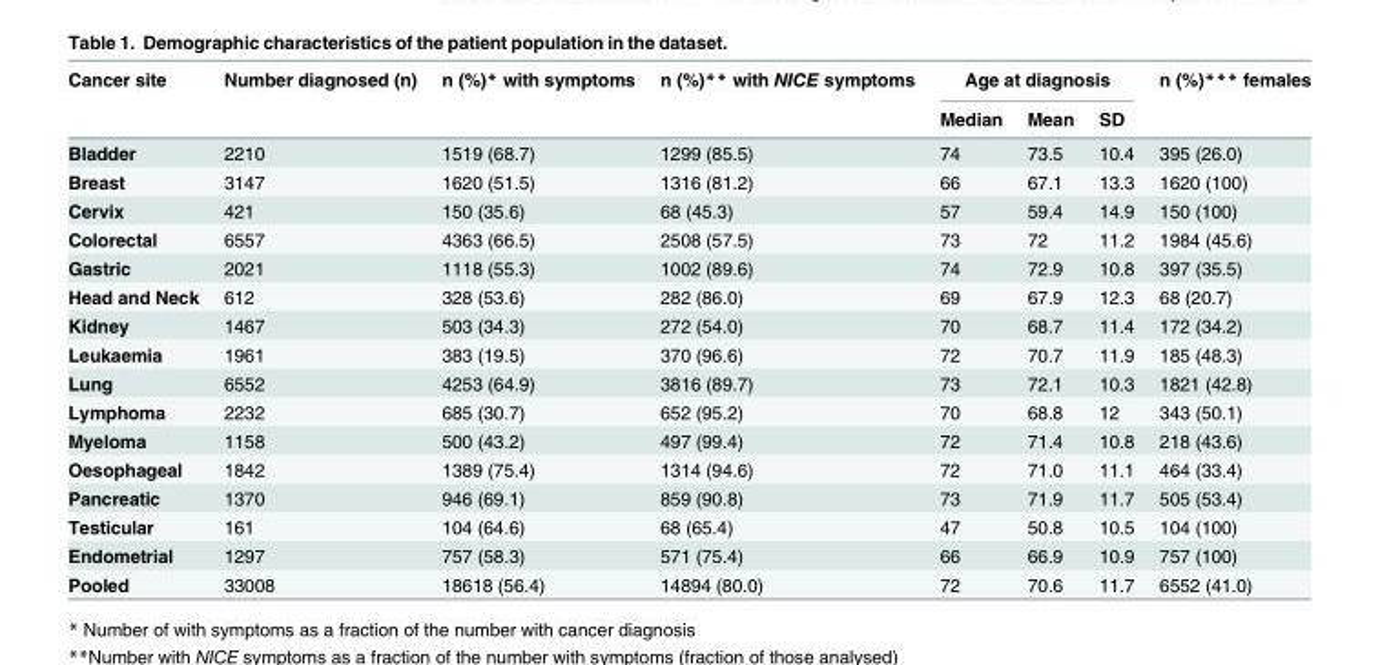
<table><thead><tr><td rowspan="2">Cancer site</td><td rowspan="2">Number diagnosed (n)</td><td rowspan="2">n (%)* with symptoms</td><td rowspan="2">n (%)** with NICE symptoms</td><td colspan="3">Age at diagnosis</td><td rowspan="2">n (%)*** females</td></tr><tr><td>Median</td><td>Mean</td><td>SD</td></tr></thead><tbody><tr><td>Bladder</td><td>2210</td><td>1519 (68.7)</td><td>1299 (85.5)</td><td>74</td><td>73.5</td><td>10.4</td><td>395 (26.0)</td></tr><tr><td>Breast</td><td>3147</td><td>1620 (51.5)</td><td>1316 (81.2)</td><td>66</td><td>67.1</td><td>13.3</td><td>1620 (100)</td></tr><tr><td>Cervix</td><td>421</td><td>150 (35.6)</td><td>68 (45.3)</td><td>57</td><td>59.4</td><td>14.9</td><td>150 (100)</td></tr><tr><td>Colorectal</td><td>6557</td><td>4363 (66.5)</td><td>2508 (57.5)</td><td>73</td><td>72</td><td>11.2</td><td>1984 (45.6)</td></tr><tr><td>Gastric</td><td>2021</td><td>1118 (55.3)</td><td>1002 (89.6)</td><td>74</td><td>72.9</td><td>10.8</td><td>397 (35.5)</td></tr><tr><td>Head and Neck</td><td>612</td><td>328 (53.6)</td><td>282 (86.0)</td><td>69</td><td>67.9</td><td>12.3</td><td>68 (20.7)</td></tr><tr><td>Kidney</td><td>1467</td><td>503 (34.3)</td><td>272 (54.0)</td><td>70</td><td>68.7</td><td>11.4</td><td>172 (34.2)</td></tr><tr><td>Leukaemia</td><td>1961</td><td>383 (19.5)</td><td>370 (96.6)</td><td>72</td><td>70.7</td><td>11.9</td><td>185 (48.3)</td></tr><tr><td>Lung</td><td>6552</td><td>4253 (64.9)</td><td>3816 (89.7)</td><td>73</td><td>72.1</td><td>10.3</td><td>1821 (42.8)</td></tr><tr><td>Lymphoma</td><td>2232</td><td>685 (30.7)</td><td>652 (95.2)</td><td>70</td><td>68.8</td><td>12</td><td>343 (50.1)</td></tr><tr><td>Myeloma</td><td>1158</td><td>500 (43.2)</td><td>497 (99.4)</td><td>72</td><td>71.4</td><td>10.8</td><td>218 (43.6)</td></tr><tr><td>Oesophageal</td><td>1842</td><td>1389 (75.4)</td><td>1314 (94.6)</td><td>72</td><td>71.0</td><td>11.1</td><td>464 (33.4)</td></tr><tr><td>Pancreatic</td><td>1370</td><td>946 (69.1)</td><td>859 (90.8)</td><td>73</td><td>71.9</td><td>11.7</td><td>505 (53.4)</td></tr><tr><td>Testicular</td><td>161</td><td>104 (64.6)</td><td>68 (65.4)</td><td>47</td><td>50.8</td><td>10.5</td><td>104 (100)</td></tr><tr><td>Endometrial</td><td>1297</td><td>757 (58.3)</td><td>571 (75.4)</td><td>66</td><td>66.9</td><td>10.9</td><td>757 (100)</td></tr><tr><td>Pooled</td><td>33008</td><td>18618 (56.4)</td><td>14894 (80.0)</td><td>72</td><td>70.6</td><td>11.7</td><td>6552 (41.0)</td></tr></tbody></table>